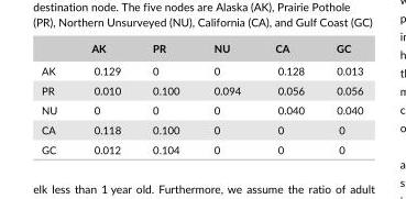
<table><thead><tr><td></td><td>AK</td><td>PR</td><td>NU</td><td>CA</td><td>GC</td></tr></thead><tbody><tr><td>AK</td><td>0.129</td><td>0</td><td>0</td><td>0.128</td><td>0.013</td></tr><tr><td>PR</td><td>0.010</td><td>0.100</td><td>0.094</td><td>0.056</td><td>0.056</td></tr><tr><td>NU</td><td>0</td><td>0</td><td>0</td><td>0.040</td><td>0.040</td></tr><tr><td>CA</td><td>0.118</td><td>0.100</td><td>0</td><td>0</td><td>0</td></tr><tr><td>GC</td><td>0.012</td><td>0.104</td><td>0</td><td>0</td><td>0</td></tr></tbody></table>